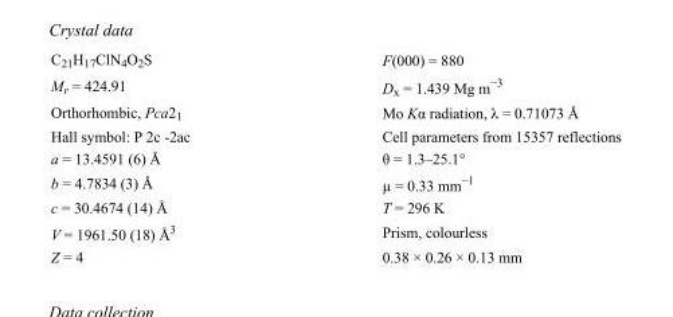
<table><tbody><tr><td>C<sub>21</sub>H<sub>17</sub>ClN<sub>4</sub>O<sub>2</sub>S</td><td>F(000) = 880</td></tr><tr><td>M<sub>r</sub> = 424.91</td><td>D<sub>x</sub> = 1.439 Mg m<sup>−3</sup></td></tr><tr><td>Orthorhombic, Pca2<sub>1</sub></td><td>Mo Kα radiation, λ = 0.71073 Å</td></tr><tr><td>Hall symbol: P 2c -2ac</td><td>Cell parameters from 15357 reflections</td></tr><tr><td>a = 13.4591 (6) Å</td><td>θ = 1.3–25.1°</td></tr><tr><td>b = 4.7834 (3) Å</td><td>µ = 0.33 mm<sup>−1</sup></td></tr><tr><td>c = 30.4674 (14) Å</td><td>T = 296 K</td></tr><tr><td>V = 1961.50 (18) Å<sup>3</sup></td><td>Prism, colourless</td></tr><tr><td>Z = 4</td><td>0.38 × 0.26 × 0.13 mm</td></tr></tbody></table>